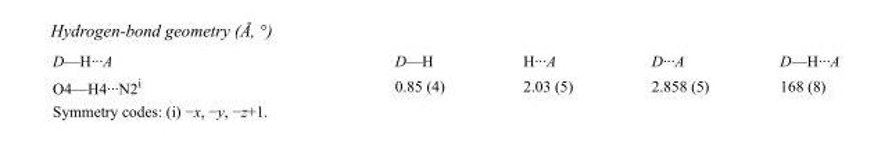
<table><tbody><tr><td>D—H···A</td><td>D—H</td><td>H···A</td><td>D···A</td><td>D—H···A</td></tr><tr><td>O4—H4···N2<sup>i</sup></td><td>0.85 (4)</td><td>2.03 (5)</td><td>2.858 (5)</td><td>168 (8)</td></tr></tbody></table>